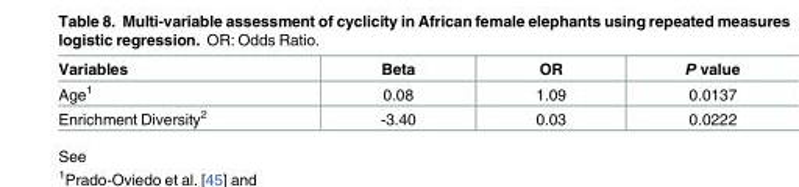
<table><thead><tr><td>Variables</td><td>Beta</td><td>OR</td><td>P value</td></tr></thead><tbody><tr><td>Age<sup>1</sup></td><td>0.08</td><td>1.09</td><td>0.0137</td></tr><tr><td>Enrichment Diversity<sup>2</sup></td><td>-3.40</td><td>0.03</td><td>0.0222</td></tr></tbody></table>